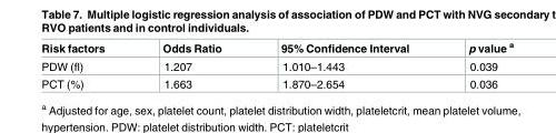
<table><thead><tr><td>Risk factors</td><td>Odds Ratio</td><td>95% Confidence Interval</td><td>p value <sup>a</sup></td></tr></thead><tbody><tr><td>PDW (fl)</td><td>1.207</td><td>1.010–1.443</td><td>0.039</td></tr><tr><td>PCT (%)</td><td>1.663</td><td>1.870–2.654</td><td>0.036</td></tr></tbody></table>